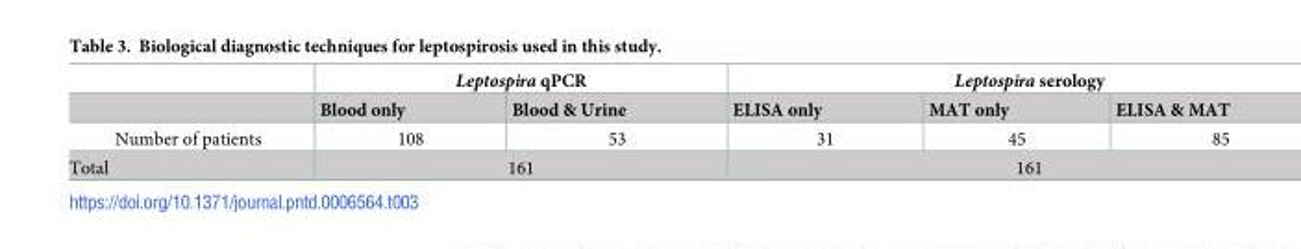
<table><thead><tr><td rowspan="2"></td><td colspan="2">Leptospira qPCR</td><td colspan="3">Leptospira serology</td></tr><tr><td>Blood only</td><td>Blood &amp; Urine</td><td>ELISA only</td><td>MAT only</td><td>ELISA &amp; MAT</td></tr></thead><tbody><tr><td>Number of patients</td><td>108</td><td>53</td><td>31</td><td>45</td><td>85</td></tr><tr><td>Total</td><td colspan="2">161</td><td colspan="3">161</td></tr></tbody></table>